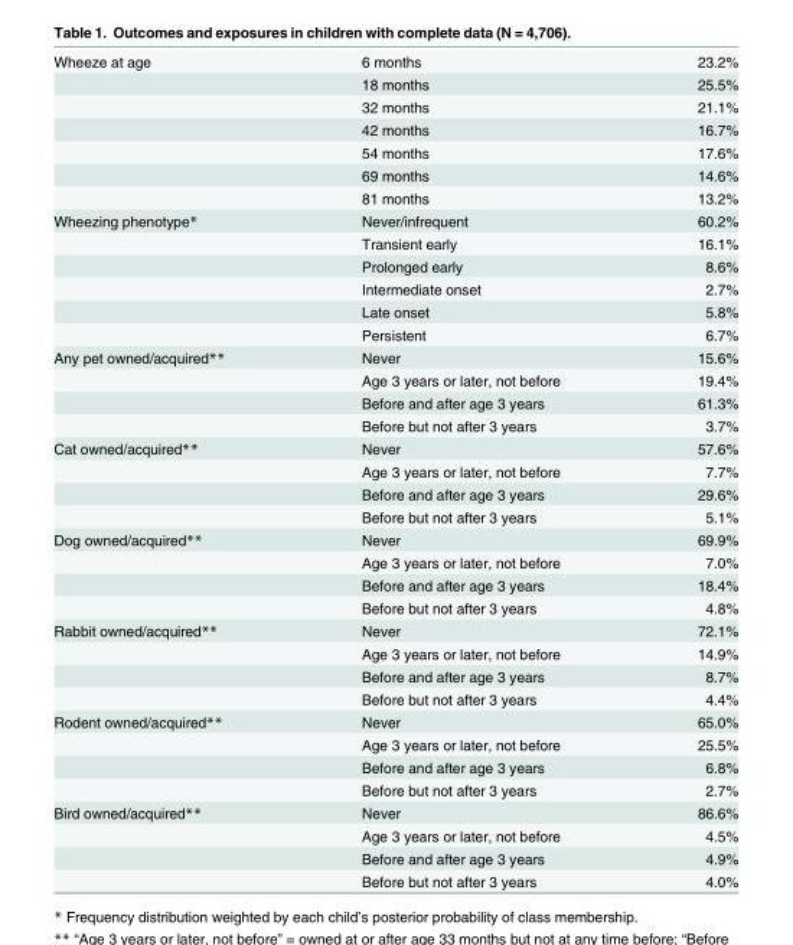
<table><tbody><tr><td rowspan="7">Wheeze at age</td><td>6 months</td><td>23.2%</td></tr><tr><td>18 months</td><td>25.5%</td></tr><tr><td>32 months</td><td>21.1%</td></tr><tr><td>42 months</td><td>16.7%</td></tr><tr><td>54 months</td><td>17.6%</td></tr><tr><td>69 months</td><td>14.6%</td></tr><tr><td>81 months</td><td>13.2%</td></tr><tr><td rowspan="6">Wheezing phenotype*</td><td>Never/infrequent</td><td>60.2%</td></tr><tr><td>Transient early</td><td>16.1%</td></tr><tr><td>Prolonged early</td><td>8.6%</td></tr><tr><td>Intermediate onset</td><td>2.7%</td></tr><tr><td>Late onset</td><td>5.8%</td></tr><tr><td>Persistent</td><td>6.7%</td></tr><tr><td rowspan="4">Any pet owned/acquired**</td><td>Never</td><td>15.6%</td></tr><tr><td>Age 3 years or later, not before</td><td>19.4%</td></tr><tr><td>Before and after age 3 years</td><td>61.3%</td></tr><tr><td>Before but not after 3 years</td><td>3.7%</td></tr><tr><td rowspan="4">Cat owned/acquired**</td><td>Never</td><td>57.6%</td></tr><tr><td>Age 3 years or later, not before</td><td>7.7%</td></tr><tr><td>Before and after age 3 years</td><td>29.6%</td></tr><tr><td>Before but not after 3 years</td><td>5.1%</td></tr><tr><td rowspan="4">Dog owned/acquired**</td><td>Never</td><td>69.9%</td></tr><tr><td>Age 3 years or later, not before</td><td>7.0%</td></tr><tr><td>Before and after age 3 years</td><td>18.4%</td></tr><tr><td>Before but not after 3 years</td><td>4.8%</td></tr><tr><td rowspan="4">Rabbit owned/acquired**</td><td>Never</td><td>72.1%</td></tr><tr><td>Age 3 years or later, not before</td><td>14.9%</td></tr><tr><td>Before and after age 3 years</td><td>8.7%</td></tr><tr><td>Before but not after 3 years</td><td>4.4%</td></tr><tr><td rowspan="4">Rodent owned/acquired**</td><td>Never</td><td>65.0%</td></tr><tr><td>Age 3 years or later, not before</td><td>25.5%</td></tr><tr><td>Before and after age 3 years</td><td>6.8%</td></tr><tr><td>Before but not after 3 years</td><td>2.7%</td></tr><tr><td rowspan="4">Bird owned/acquired**</td><td>Never</td><td>86.6%</td></tr><tr><td>Age 3 years or later, not before</td><td>4.5%</td></tr><tr><td>Before and after age 3 years</td><td>4.9%</td></tr><tr><td>Before but not after 3 years</td><td>4.0%</td></tr></tbody></table>